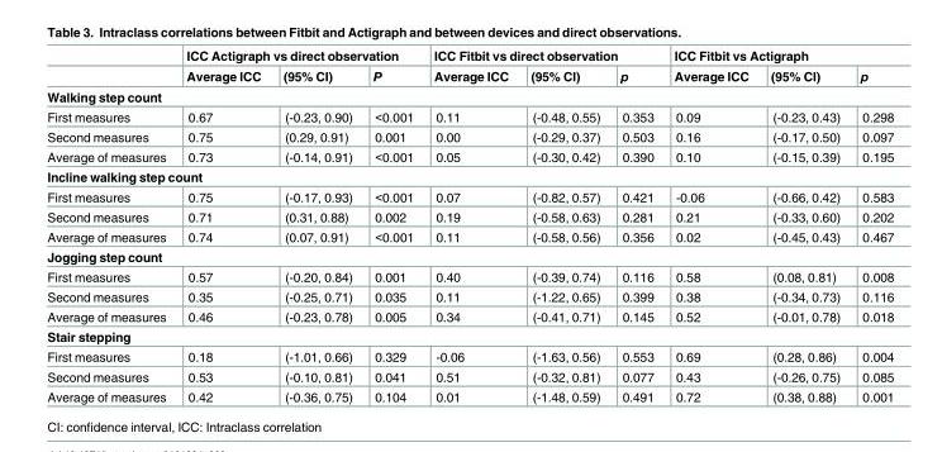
<table><thead><tr><td rowspan="2"></td><td colspan="3">ICC Actigraph vs direct observation</td><td colspan="3">ICC Fitbit vs direct observation</td><td colspan="3">ICC Fitbit vs Actigraph</td></tr><tr><td>Average ICC</td><td>(95% CI)</td><td>P</td><td>Average ICC</td><td>(95% CI)</td><td>p</td><td>Average ICC</td><td>(95% CI)</td><td>p</td></tr></thead><tbody><tr><td colspan="10">Walking step count</td></tr><tr><td>First measures</td><td>0.67</td><td>(-0.23, 0.90)</td><td>&lt;0.001</td><td>0.11</td><td>(-0.48, 0.55)</td><td>0.353</td><td>0.09</td><td>(-0.23, 0.43)</td><td>0.298</td></tr><tr><td>Second measures</td><td>0.75</td><td>(0.29, 0.91)</td><td>0.001</td><td>0.00</td><td>(-0.29, 0.37)</td><td>0.503</td><td>0.16</td><td>(-0.17, 0.50)</td><td>0.097</td></tr><tr><td>Average of measures</td><td>0.73</td><td>(-0.14, 0.91)</td><td>&lt;0.001</td><td>0.05</td><td>(-0.30, 0.42)</td><td>0.390</td><td>0.10</td><td>(-0.15, 0.39)</td><td>0.195</td></tr><tr><td colspan="10">Incline walking step count</td></tr><tr><td>First measures</td><td>0.75</td><td>(-0.17, 0.93)</td><td>&lt;0.001</td><td>0.07</td><td>(-0.82, 0.57)</td><td>0.421</td><td>-0.06</td><td>(-0.66, 0.42)</td><td>0.583</td></tr><tr><td>Second measures</td><td>0.71</td><td>(0.31, 0.88)</td><td>0.002</td><td>0.19</td><td>(-0.58, 0.63)</td><td>0.281</td><td>0.21</td><td>(-0.33, 0.60)</td><td>0.202</td></tr><tr><td>Average of measures</td><td>0.74</td><td>(0.07, 0.91)</td><td>&lt;0.001</td><td>0.11</td><td>(-0.58, 0.56)</td><td>0.356</td><td>0.02</td><td>(-0.45, 0.43)</td><td>0.467</td></tr><tr><td colspan="10">Jogging step count</td></tr><tr><td>First measures</td><td>0.57</td><td>(-0.20, 0.84)</td><td>0.001</td><td>0.40</td><td>(-0.39, 0.74)</td><td>0.116</td><td>0.58</td><td>(0.08, 0.81)</td><td>0.008</td></tr><tr><td>Second measures</td><td>0.35</td><td>(-0.25, 0.71)</td><td>0.035</td><td>0.11</td><td>(-1.22, 0.65)</td><td>0.399</td><td>0.38</td><td>(-0.34, 0.73)</td><td>0.116</td></tr><tr><td>Average of measures</td><td>0.46</td><td>(-0.23, 0.78)</td><td>0.005</td><td>0.34</td><td>(-0.41, 0.71)</td><td>0.145</td><td>0.52</td><td>(-0.01, 0.78)</td><td>0.018</td></tr><tr><td colspan="10">Stair stepping</td></tr><tr><td>First measures</td><td>0.18</td><td>(-1.01, 0.66)</td><td>0.329</td><td>-0.06</td><td>(-1.63, 0.56)</td><td>0.553</td><td>0.69</td><td>(0.28, 0.86)</td><td>0.004</td></tr><tr><td>Second measures</td><td>0.53</td><td>(-0.10, 0.81)</td><td>0.041</td><td>0.51</td><td>(-0.32, 0.81)</td><td>0.077</td><td>0.43</td><td>(-0.26, 0.75)</td><td>0.085</td></tr><tr><td>Average of measures</td><td>0.42</td><td>(-0.36, 0.75)</td><td>0.104</td><td>0.01</td><td>(-1.48, 0.59)</td><td>0.491</td><td>0.72</td><td>(0.38, 0.88)</td><td>0.001</td></tr></tbody></table>